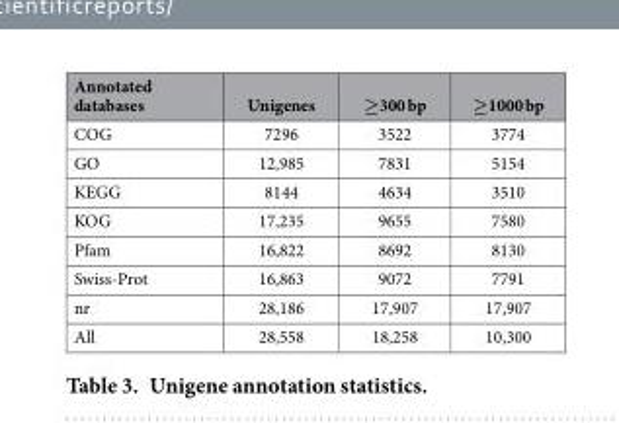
<table><thead><tr><td>Annotated databases</td><td>Unigenes</td><td>≥300 bp</td><td>≥1000 bp</td></tr></thead><tbody><tr><td>COG</td><td>7296</td><td>3522</td><td>3774</td></tr><tr><td>GO</td><td>12,985</td><td>7831</td><td>5154</td></tr><tr><td>KEGG</td><td>8144</td><td>4634</td><td>3510</td></tr><tr><td>KOG</td><td>17,235</td><td>9655</td><td>7580</td></tr><tr><td>Pfam</td><td>16,822</td><td>8692</td><td>8130</td></tr><tr><td>Swiss-Prot</td><td>16,863</td><td>9072</td><td>7791</td></tr><tr><td>nr</td><td>28,186</td><td>17,907</td><td>17,907</td></tr><tr><td>All</td><td>28,558</td><td>18,258</td><td>10,300</td></tr></tbody></table>